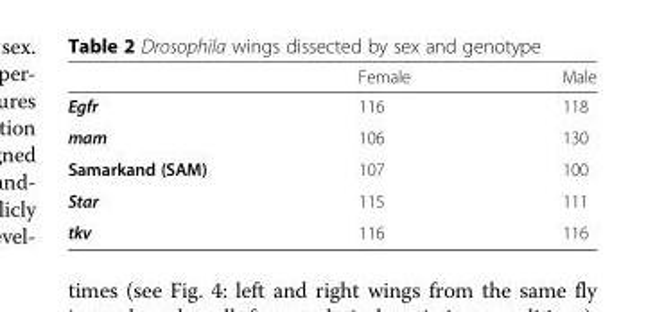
<table><thead><tr><td></td><td>Female</td><td>Male</td></tr></thead><tbody><tr><td>Egfr</td><td>116</td><td>118</td></tr><tr><td>mam</td><td>106</td><td>130</td></tr><tr><td>Samarkand (SAM)</td><td>107</td><td>100</td></tr><tr><td>Star</td><td>115</td><td>111</td></tr><tr><td>tkv</td><td>116</td><td>116</td></tr></tbody></table>